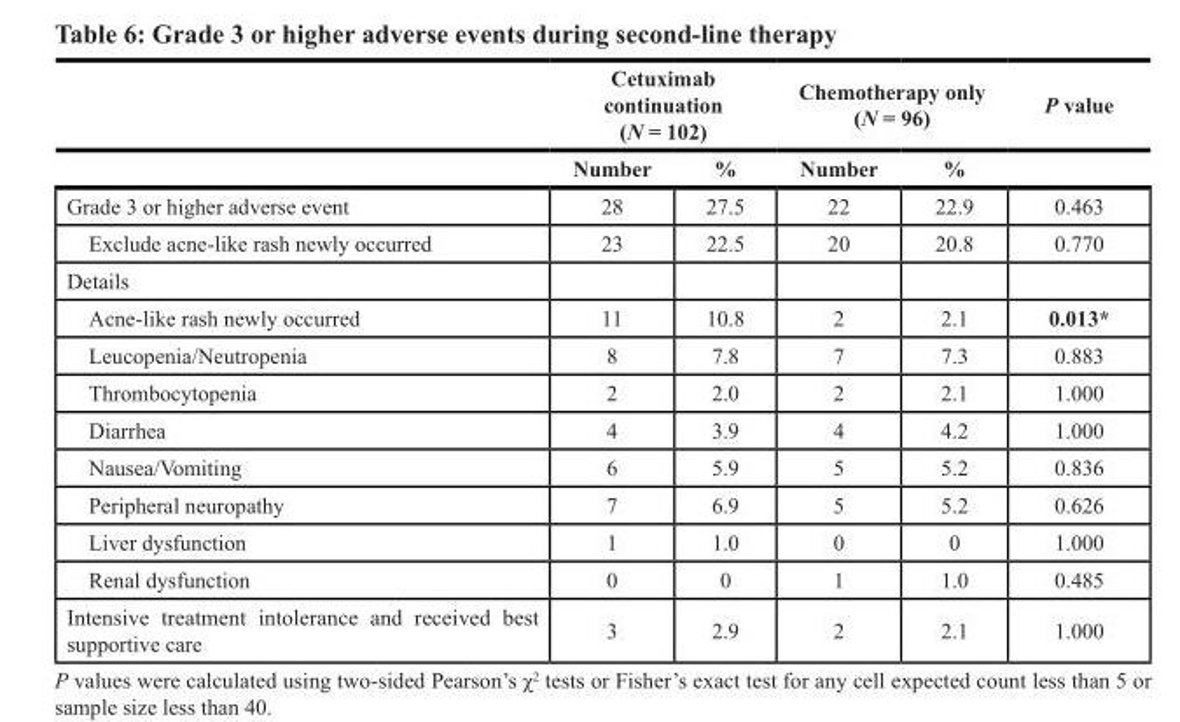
<table><thead><tr><td rowspan="2"></td><td colspan="2">Cetuximab continuation (N = 102)</td><td colspan="2">Chemotherapy only (N = 96)</td><td rowspan="2">P value</td></tr><tr><td>Number</td><td>%</td><td>Number</td><td>%</td></tr></thead><tbody><tr><td>Grade 3 or higher adverse event</td><td>28</td><td>27.5</td><td>22</td><td>22.9</td><td>0.463</td></tr><tr><td>Exclude acne-like rash newly occurred</td><td>23</td><td>22.5</td><td>20</td><td>20.8</td><td>0.770</td></tr><tr><td colspan="6">Details</td></tr><tr><td>Acne-like rash newly occurred</td><td>11</td><td>10.8</td><td>2</td><td>2.1</td><td>0.013*</td></tr><tr><td>Leucopenia/Neutropenia</td><td>8</td><td>7.8</td><td>7</td><td>7.3</td><td>0.883</td></tr><tr><td>Thrombocytopenia</td><td>2</td><td>2.0</td><td>2</td><td>2.1</td><td>1.000</td></tr><tr><td>Diarrhea</td><td>4</td><td>3.9</td><td>4</td><td>4.2</td><td>1.000</td></tr><tr><td>Nausea/Vomiting</td><td>6</td><td>5.9</td><td>5</td><td>5.2</td><td>0.836</td></tr><tr><td>Peripheral neuropathy</td><td>7</td><td>6.9</td><td>5</td><td>5.2</td><td>0.626</td></tr><tr><td>Liver dysfunction</td><td>1</td><td>1.0</td><td>0</td><td>0</td><td>1.000</td></tr><tr><td>Renal dysfunction</td><td>0</td><td>0</td><td>1</td><td>1.0</td><td>0.485</td></tr><tr><td>Intensive treatment intolerance and received best supportive care</td><td>3</td><td>2.9</td><td>2</td><td>2.1</td><td>1.000</td></tr></tbody></table>